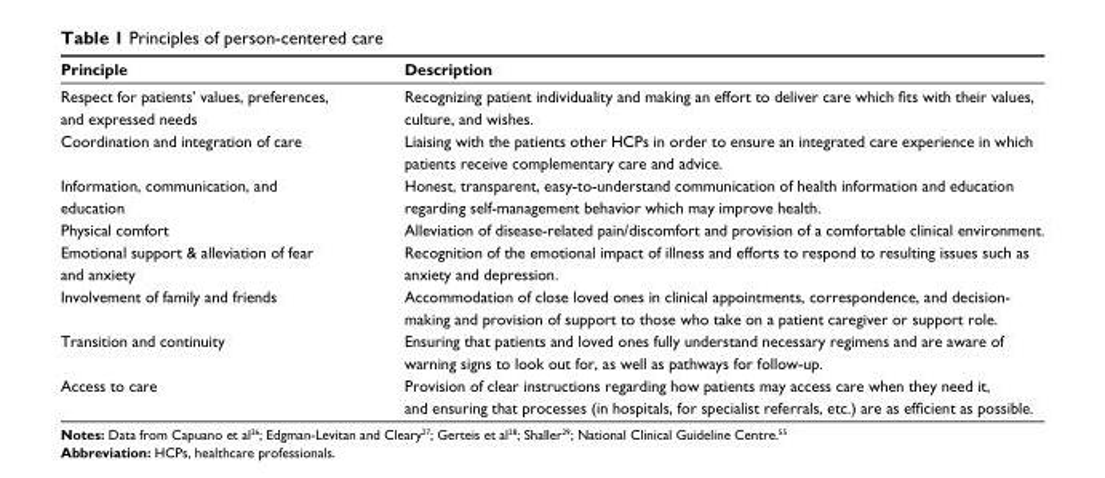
<table><thead><tr><td>Principle</td><td>Description</td></tr></thead><tbody><tr><td>respect for patients’ values, preferences, and expressed needs</td><td>Recognizing patient individuality and making an effort to deliver care which fits with their values, culture, and wishes.</td></tr><tr><td>coordination and integration of care</td><td>liaising with the patients other hcPs in order to ensure an integrated care experience in which patients receive complementary care and advice.</td></tr><tr><td>information, communication, and education</td><td>honest, transparent, easy-to-understand communication of health information and education regarding self-management behavior which may improve health.</td></tr><tr><td>Physical comfort</td><td>Alleviation of disease-related pain/discomfort and provision of a comfortable clinical environment.</td></tr><tr><td>emotional support &amp; alleviation of fear and anxiety</td><td>recognition of the emotional impact of illness and efforts to respond to resulting issues such as anxiety and depression.</td></tr><tr><td>involvement of family and friends</td><td>Accommodation of close loved ones in clinical appointments, correspondence, and decision- making and provision of support to those who take on a patient caregiver or support role.</td></tr><tr><td>Transition and continuity</td><td>ensuring that patients and loved ones fully understand necessary regimens and are aware of warning signs to look out for, as well as pathways for follow-up.</td></tr><tr><td>Access to care</td><td>Provision of clear instructions regarding how patients may access care when they need it, and ensuring that processes (in hospitals, for specialist referrals, etc.) are as efficient as possible.</td></tr></tbody></table>